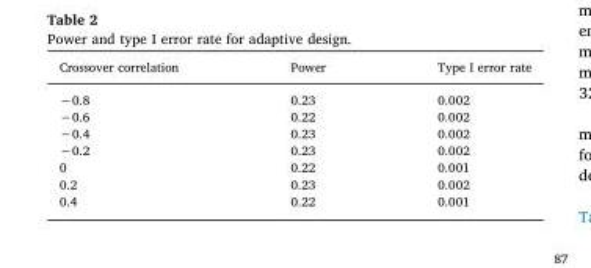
<table><thead><tr><td>Crossover correlation</td><td>Power</td><td>Type I error rate</td></tr></thead><tbody><tr><td>−0.8</td><td>0.23</td><td>0.002</td></tr><tr><td>−0.6</td><td>0.22</td><td>0.002</td></tr><tr><td>−0.4</td><td>0.23</td><td>0.002</td></tr><tr><td>−0.2</td><td>0.23</td><td>0.002</td></tr><tr><td>0</td><td>0.22</td><td>0.001</td></tr><tr><td>0.2</td><td>0.23</td><td>0.002</td></tr><tr><td>0.4</td><td>0.22</td><td>0.001</td></tr></tbody></table>